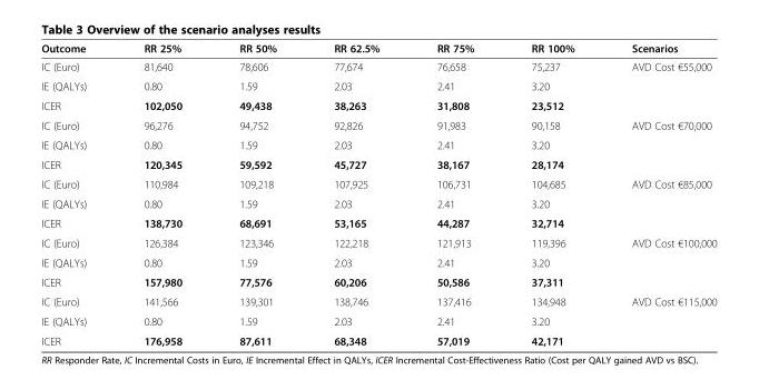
<table><thead><tr><td>Outcome</td><td>RR 25%</td><td>RR 50%</td><td>RR 62.5%</td><td>RR 75%</td><td>RR 100%</td><td>Scenarios</td></tr></thead><tbody><tr><td>IC (Euro)</td><td>81,640</td><td>78,606</td><td>77,674</td><td>76,658</td><td>75,237</td><td rowspan="3">AVD Cost €55,000</td></tr><tr><td>IE (QALYs)</td><td>0.80</td><td>1.59</td><td>2.03</td><td>2.41</td><td>3.20</td></tr><tr><td>ICER</td><td>102,050</td><td>49,438</td><td>38,263</td><td>31,808</td><td>23,512</td></tr><tr><td>IC (Euro)</td><td>96,276</td><td>94,752</td><td>92,826</td><td>91,983</td><td>90,158</td><td rowspan="3">AVD Cost €70,000</td></tr><tr><td>IE (QALYs)</td><td>0.80</td><td>1.59</td><td>2.03</td><td>2.41</td><td>3.20</td></tr><tr><td>ICER</td><td>120,345</td><td>59,592</td><td>45,727</td><td>38,167</td><td>28,174</td></tr><tr><td>IC (Euro)</td><td>110,984</td><td>109,218</td><td>107,925</td><td>106,731</td><td>104,685</td><td rowspan="3">AVD Cost €85,000</td></tr><tr><td>IE (QALYs)</td><td>0.80</td><td>1.59</td><td>2.03</td><td>2.41</td><td>3.20</td></tr><tr><td>ICER</td><td>138,730</td><td>68,691</td><td>53,165</td><td>44,287</td><td>32,714</td></tr><tr><td>IC (Euro)</td><td>126,384</td><td>123,346</td><td>122,218</td><td>121,913</td><td>119,396</td><td rowspan="3">AVD Cost €100,000</td></tr><tr><td>IE (QALYs)</td><td>0.80</td><td>1.59</td><td>2.03</td><td>2.41</td><td>3.20</td></tr><tr><td>ICER</td><td>157,980</td><td>77,576</td><td>60,206</td><td>50,586</td><td>37,311</td></tr><tr><td>IC (Euro)</td><td>141,566</td><td>139,301</td><td>138,746</td><td>137,416</td><td>134,948</td><td rowspan="3">AVD Cost €115,000</td></tr><tr><td>IE (QALYs)</td><td>0.80</td><td>1.59</td><td>2.03</td><td>2.41</td><td>3.20</td></tr><tr><td>ICER</td><td>176,958</td><td>87,611</td><td>68,348</td><td>57,019</td><td>42,171</td></tr></tbody></table>